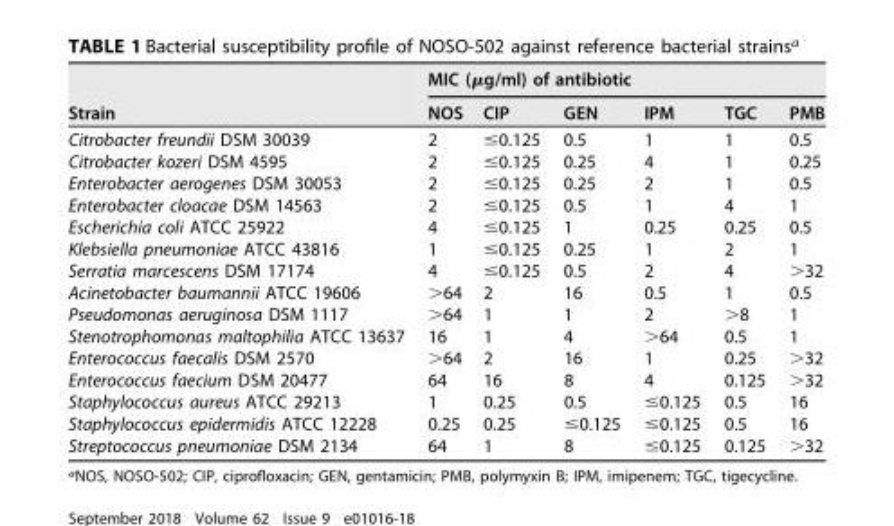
<table><thead><tr><td rowspan="2">Strain</td><td colspan="6">MIC (μg/ml) of antibiotic</td></tr><tr><td>NOS</td><td>CIP</td><td>GEN</td><td>IPM</td><td>TGC</td><td>PMB</td></tr></thead><tbody><tr><td>Citrobacter freundii DSM 30039</td><td>2</td><td>≤0.125</td><td>0.5</td><td>1</td><td>1</td><td>0.5</td></tr><tr><td>Citrobacter kozeri DSM 4595</td><td>2</td><td>≤0.125</td><td>0.25</td><td>4</td><td>1</td><td>0.25</td></tr><tr><td>Enterobacter aerogenes DSM 30053</td><td>2</td><td>≤0.125</td><td>0.25</td><td>2</td><td>1</td><td>0.5</td></tr><tr><td>Enterobacter cloacae DSM 14563</td><td>2</td><td>≤0.125</td><td>0.5</td><td>1</td><td>4</td><td>1</td></tr><tr><td>Escherichia coli ATCC 25922</td><td>4</td><td>≤0.125</td><td>1</td><td>0.25</td><td>0.25</td><td>0.5</td></tr><tr><td>Klebsiella pneumoniae ATCC 43816</td><td>1</td><td>≤0.125</td><td>0.25</td><td>1</td><td>2</td><td>1</td></tr><tr><td>Serratia marcescens DSM 17174</td><td>4</td><td>≤0.125</td><td>0.5</td><td>2</td><td>4</td><td>&gt;32</td></tr><tr><td>Acinetobacter baumannii ATCC 19606</td><td>&gt;64</td><td>2</td><td>16</td><td>0.5</td><td>1</td><td>0.5</td></tr><tr><td>Pseudomonas aeruginosa DSM 1117</td><td>&gt;64</td><td>1</td><td>1</td><td>2</td><td>&gt;8</td><td>1</td></tr><tr><td>Stenotrophomonas maltophilia ATCC 13637</td><td>16</td><td>1</td><td>4</td><td>&gt;64</td><td>0.5</td><td>1</td></tr><tr><td>Enterococcus faecalis DSM 2570</td><td>&gt;64</td><td>2</td><td>16</td><td>1</td><td>0.25</td><td>&gt;32</td></tr><tr><td>Enterococcus faecium DSM 20477</td><td>64</td><td>16</td><td>8</td><td>4</td><td>0.125</td><td>&gt;32</td></tr><tr><td>Staphylococcus aureus ATCC 29213</td><td>1</td><td>0.25</td><td>0.5</td><td>≤0.125</td><td>0.5</td><td>16</td></tr><tr><td>Staphylococcus epidermidis ATCC 12228</td><td>0.25</td><td>0.25</td><td>≤0.125</td><td>≤0.125</td><td>0.5</td><td>16</td></tr><tr><td>Streptococcus pneumoniae DSM 2134</td><td>64</td><td>1</td><td>8</td><td>≤0.125</td><td>0.125</td><td>&gt;32</td></tr></tbody></table>